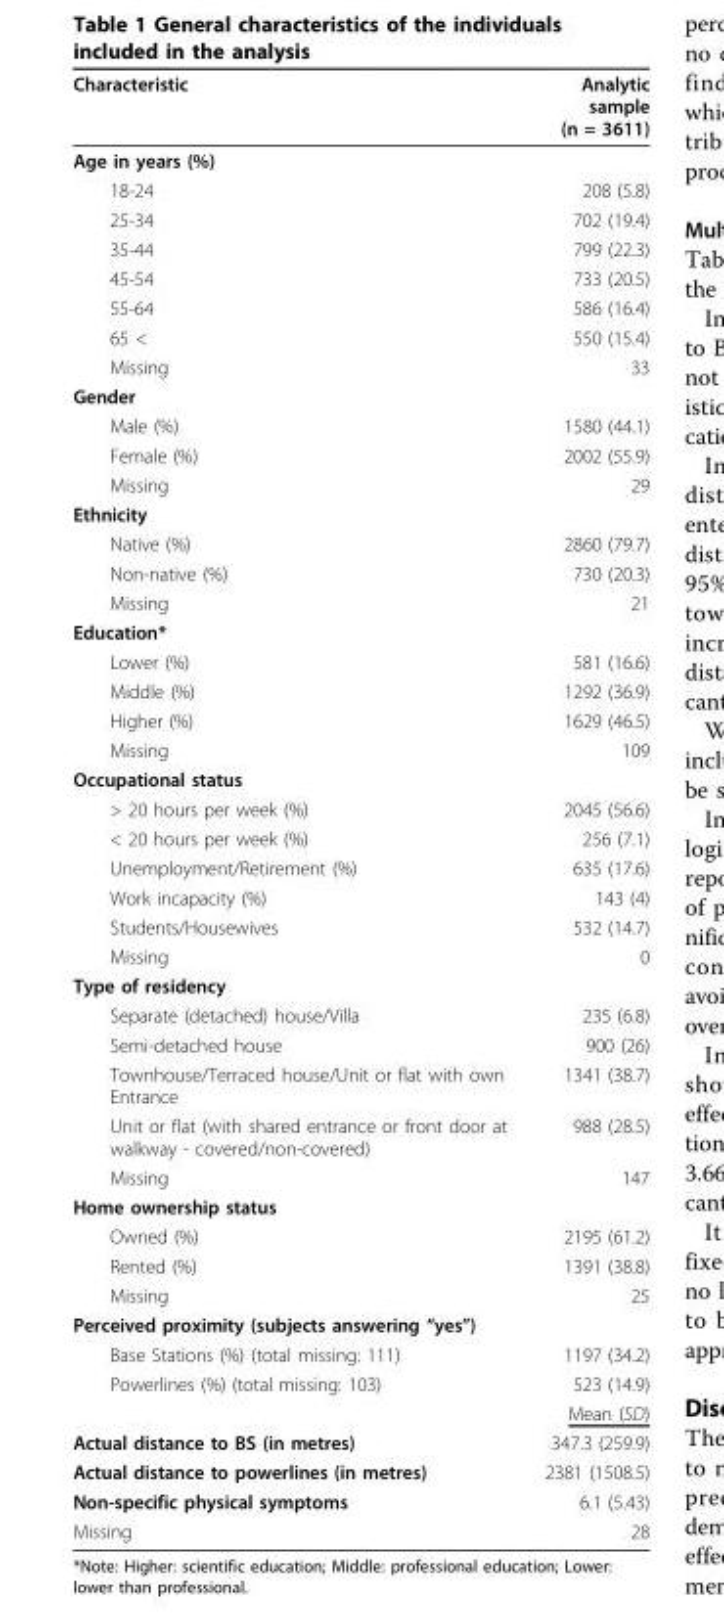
<table><thead><tr><td>Characteristic</td><td>Analytic sample (n = 3611)</td></tr></thead><tbody><tr><td colspan="2">Age in years (%)</td></tr><tr><td>18-24</td><td>208 (5.8)</td></tr><tr><td>25-34</td><td>702 (19.4)</td></tr><tr><td>35-44</td><td>799 (22.3)</td></tr><tr><td>45-54</td><td>733 (20.5)</td></tr><tr><td>55-64</td><td>586 (16.4)</td></tr><tr><td>65 &lt;</td><td>550 (15.4)</td></tr><tr><td>Missing</td><td>33</td></tr><tr><td colspan="2">Gender</td></tr><tr><td>Male (%)</td><td>1580 (44.1)</td></tr><tr><td>Female (%)</td><td>2002 (55.9)</td></tr><tr><td>Missing</td><td>29</td></tr><tr><td colspan="2">Ethnicity</td></tr><tr><td>Native (%)</td><td>2860 (79.7)</td></tr><tr><td>Non-native (%)</td><td>730 (20.3)</td></tr><tr><td>Missing</td><td>21</td></tr><tr><td colspan="2">Education*</td></tr><tr><td>Lower (%)</td><td>581 (16.6)</td></tr><tr><td>Middle (%)</td><td>1292 (36.9)</td></tr><tr><td>Higher (%)</td><td>1629 (46.5)</td></tr><tr><td>Missing</td><td>109</td></tr><tr><td colspan="2">Occupational status</td></tr><tr><td>&gt; 20 hours per week (%)</td><td>2045 (56.6)</td></tr><tr><td>&lt; 20 hours per week (%)</td><td>256 (7.1)</td></tr><tr><td>Unemployment/Retirement (%)</td><td>635 (17.6)</td></tr><tr><td>Work incapacity (%)</td><td>143 (4)</td></tr><tr><td>Students/Housewives</td><td>532 (14.7)</td></tr><tr><td>Missing</td><td>0</td></tr><tr><td colspan="2">Type of residency</td></tr><tr><td>Separate (detached) house/Villa</td><td>235 (6.8)</td></tr><tr><td>Semi-detached house</td><td>900 (26)</td></tr><tr><td>Townhouse/Terraced house/Unit or flat with own Entrance</td><td>1341 (38.7)</td></tr><tr><td>Unit or flat (with shared entrance or front door at walkway - covered/non-covered)</td><td>988 (28.5)</td></tr><tr><td>Missing</td><td>147</td></tr><tr><td colspan="2">Home ownership status</td></tr><tr><td>Owned (%)</td><td>2195 (61.2)</td></tr><tr><td>Rented (%)</td><td>1391 (38.8)</td></tr><tr><td>Missing</td><td>25</td></tr><tr><td colspan="2">Perceived proximity (subjects answering “yes”)</td></tr><tr><td>Base Stations (%) (total missing: 111)</td><td>1197 (34.2)</td></tr><tr><td rowspan="2">Powerlines (%) (total missing: 103)</td><td>523 (14.9)</td></tr><tr><td>Mean (SD)</td></tr><tr><td>Actual distance to BS (in metres)</td><td>347.3 (259.9)</td></tr><tr><td>Actual distance to powerlines (in metres)</td><td>2381 (1508.5)</td></tr><tr><td>Non-specific physical symptoms</td><td>6.1 (5.43)</td></tr><tr><td>Missing</td><td>28</td></tr></tbody></table>